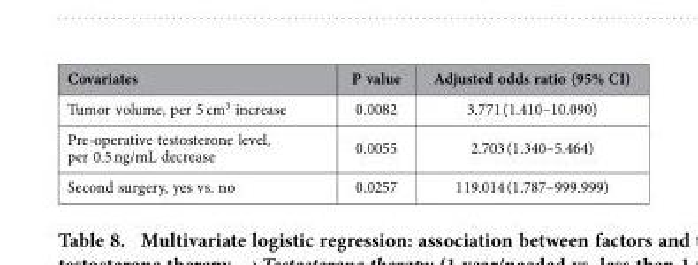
<table><thead><tr><td>Covariates</td><td>P value</td><td>Adjusted odds ratio (95% CI)</td></tr></thead><tbody><tr><td>Tumor volume, per 5 cm<sup>3</sup> increase</td><td>0.0082</td><td>3.771 (1.410–10.090)</td></tr><tr><td>Pre-operative testosterone level, per 0.5 ng/mL decrease</td><td>0.0055</td><td>2.703 (1.340–5.464)</td></tr><tr><td>Second surgery, yes vs. no</td><td>0.0257</td><td>119.014 (1.787–999.999)</td></tr></tbody></table>